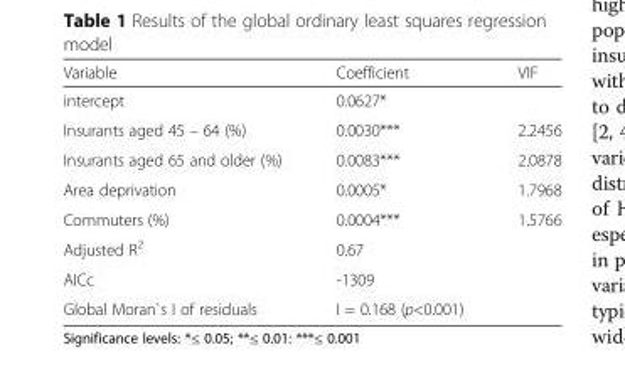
<table><thead><tr><td>Variable</td><td>Coefficient</td><td>VIF</td></tr></thead><tbody><tr><td>intercept</td><td>0.0627*</td><td></td></tr><tr><td>Insurants aged 45 – 64 (%)</td><td>0.0030***</td><td>2.2456</td></tr><tr><td>Insurants aged 65 and older (%)</td><td>0.0083***</td><td>2.0878</td></tr><tr><td>Area deprivation</td><td>0.0005*</td><td>1.7968</td></tr><tr><td>Commuters (%)</td><td>0.0004***</td><td>1.5766</td></tr><tr><td>Adjusted R<sup>2</sup></td><td>0.67</td><td></td></tr><tr><td>AICc</td><td>-1309</td><td></td></tr><tr><td>Global Moran`s I of residuals</td><td>I = 0.168 (p&lt;0.001)</td><td></td></tr></tbody></table>